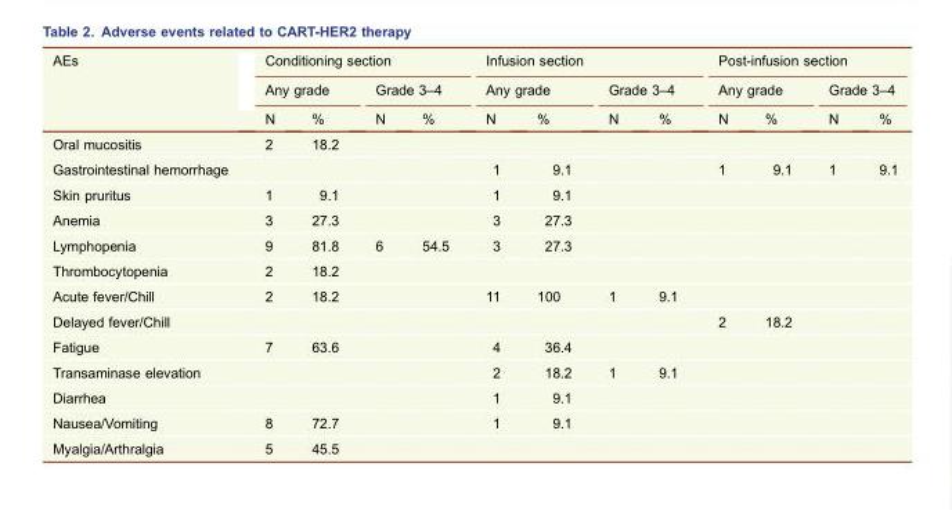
<table><thead><tr><td rowspan="3">AEs</td><td colspan="4">Conditioning section</td><td colspan="4">Infusion section</td><td colspan="4">Post-infusion section</td></tr><tr><td colspan="2">Any grade</td><td colspan="2">Grade 3–4</td><td colspan="2">Any grade</td><td colspan="2">Grade 3–4</td><td colspan="2">Any grade</td><td colspan="2">Grade 3–4</td></tr><tr><td>N</td><td>%</td><td>N</td><td>%</td><td>N</td><td>%</td><td>N</td><td>%</td><td>N</td><td>%</td><td>N</td><td>%</td></tr></thead><tbody><tr><td>Oral mucositis</td><td>2</td><td>18.2</td><td></td><td></td><td></td><td></td><td></td><td></td><td></td><td></td><td></td><td></td></tr><tr><td>Gastrointestinal hemorrhage</td><td></td><td></td><td></td><td></td><td>1</td><td>9.1</td><td></td><td></td><td>1</td><td>9.1</td><td>1</td><td>9.1</td></tr><tr><td>Skin pruritus</td><td>1</td><td>9.1</td><td></td><td></td><td>1</td><td>9.1</td><td></td><td></td><td></td><td></td><td></td><td></td></tr><tr><td>Anemia</td><td>3</td><td>27.3</td><td></td><td></td><td>3</td><td>27.3</td><td></td><td></td><td></td><td></td><td></td><td></td></tr><tr><td>Lymphopenia</td><td>9</td><td>81.8</td><td>6</td><td>54.5</td><td>3</td><td>27.3</td><td></td><td></td><td></td><td></td><td></td><td></td></tr><tr><td>Thrombocytopenia</td><td>2</td><td>18.2</td><td></td><td></td><td></td><td></td><td></td><td></td><td></td><td></td><td></td><td></td></tr><tr><td>Acute fever/Chill</td><td>2</td><td>18.2</td><td></td><td></td><td>11</td><td>100</td><td>1</td><td>9.1</td><td></td><td></td><td></td><td></td></tr><tr><td>Delayed fever/Chill</td><td></td><td></td><td></td><td></td><td></td><td></td><td></td><td></td><td>2</td><td>18.2</td><td></td><td></td></tr><tr><td>Fatigue</td><td>7</td><td>63.6</td><td></td><td></td><td>4</td><td>36.4</td><td></td><td></td><td></td><td></td><td></td><td></td></tr><tr><td>Transaminase elevation</td><td></td><td></td><td></td><td></td><td>2</td><td>18.2</td><td>1</td><td>9.1</td><td></td><td></td><td></td><td></td></tr><tr><td>Diarrhea</td><td></td><td></td><td></td><td></td><td>1</td><td>9.1</td><td></td><td></td><td></td><td></td><td></td><td></td></tr><tr><td>Nausea/Vomiting</td><td>8</td><td>72.7</td><td></td><td></td><td>1</td><td>9.1</td><td></td><td></td><td></td><td></td><td></td><td></td></tr><tr><td>Myalgia/Arthralgia</td><td>5</td><td>45.5</td><td></td><td></td><td></td><td></td><td></td><td></td><td></td><td></td><td></td><td></td></tr></tbody></table>